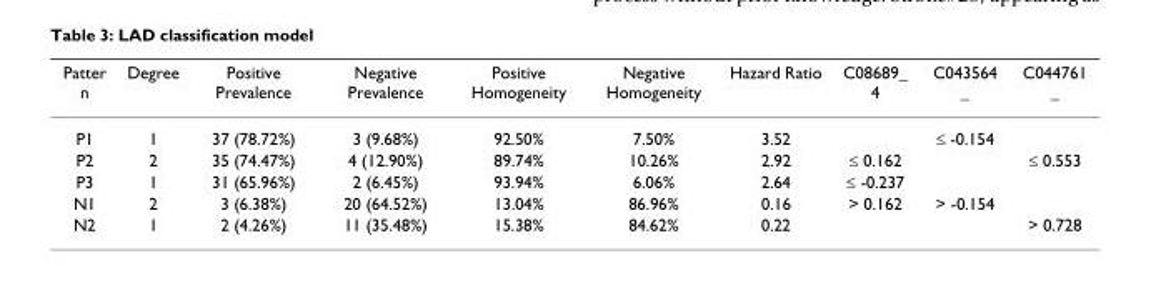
<table><thead><tr><td>Patter n</td><td>Degree</td><td>Positive Prevalence</td><td>Negative Prevalence</td><td>Positive Homogeneity</td><td>Negative Homogeneity</td><td>Hazard Ratio</td><td>C08689_ 4</td><td>C043564 _</td><td>C044761 _</td></tr></thead><tbody><tr><td>P1</td><td>1</td><td>37 (78.72%)</td><td>3 (9.68%)</td><td>92.50%</td><td>7.50%</td><td>3.52</td><td></td><td>≤ -0.154</td><td></td></tr><tr><td>P2</td><td>2</td><td>35 (74.47%)</td><td>4 (12.90%)</td><td>89.74%</td><td>10.26%</td><td>2.92</td><td>≤ 0.162</td><td></td><td>≤ 0.553</td></tr><tr><td>P3</td><td>1</td><td>31 (65.96%)</td><td>2 (6.45%)</td><td>93.94%</td><td>6.06%</td><td>2.64</td><td>≤ -0.237</td><td></td><td></td></tr><tr><td>N1</td><td>2</td><td>3 (6.38%)</td><td>20 (64.52%)</td><td>13.04%</td><td>86.96%</td><td>0.16</td><td>&gt; 0.162</td><td>&gt; -0.154</td><td></td></tr><tr><td>N2</td><td>1</td><td>2 (4.26%)</td><td>11 (35.48%)</td><td>15.38%</td><td>84.62%</td><td>0.22</td><td></td><td></td><td>&gt; 0.728</td></tr></tbody></table>